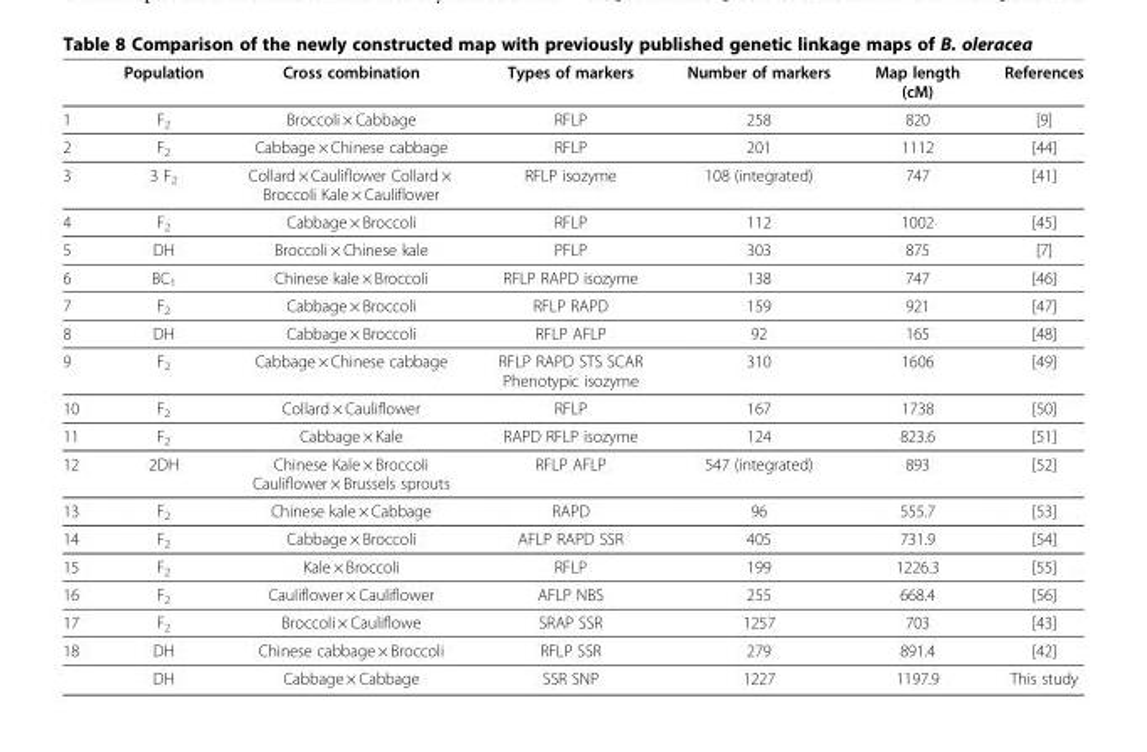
<table><thead><tr><td></td><td>Population</td><td>Cross combination</td><td>Types of markers</td><td>Number of markers</td><td>Map length (cM)</td><td>References</td></tr></thead><tbody><tr><td>1</td><td>F<sub>2</sub></td><td>Broccoli × Cabbage</td><td>RFLP</td><td>258</td><td>820</td><td>[9]</td></tr><tr><td>2</td><td>F<sub>2</sub></td><td>Cabbage × Chinese cabbage</td><td>RFLP</td><td>201</td><td>1112</td><td>[44]</td></tr><tr><td>3</td><td>3 F<sub>2</sub></td><td>Collard × Cauliflower Collard × Broccoli Kale × Cauliflower</td><td>RFLP isozyme</td><td>108 (integrated)</td><td>747</td><td>[41]</td></tr><tr><td>4</td><td>F<sub>2</sub></td><td>Cabbage × Broccoli</td><td>RFLP</td><td>112</td><td>1002</td><td>[45]</td></tr><tr><td>5</td><td>DH</td><td>Broccoli × Chinese kale</td><td>PFLP</td><td>303</td><td>875</td><td>[7]</td></tr><tr><td>6</td><td>BC<sub>1</sub></td><td>Chinese kale × Broccoli</td><td>RFLP RAPD isozyme</td><td>138</td><td>747</td><td>[46]</td></tr><tr><td>7</td><td>F<sub>2</sub></td><td>Cabbage × Broccoli</td><td>RFLP RAPD</td><td>159</td><td>921</td><td>[47]</td></tr><tr><td>8</td><td>DH</td><td>Cabbage × Broccoli</td><td>RFLP AFLP</td><td>92</td><td>165</td><td>[48]</td></tr><tr><td>9</td><td>F<sub>2</sub></td><td>Cabbage × Chinese cabbage</td><td>RFLP RAPD STS SCAR Phenotypic isozyme</td><td>310</td><td>1606</td><td>[49]</td></tr><tr><td>10</td><td>F<sub>2</sub></td><td>Collard × Cauliflower</td><td>RFLP</td><td>167</td><td>1738</td><td>[50]</td></tr><tr><td>11</td><td>F<sub>2</sub></td><td>Cabbage × Kale</td><td>RAPD RFLP isozyme</td><td>124</td><td>823.6</td><td>[51]</td></tr><tr><td>12</td><td>2DH</td><td>Chinese Kale × Broccoli Cauliflower × Brussels sprouts</td><td>RFLP AFLP</td><td>547 (integrated)</td><td>893</td><td>[52]</td></tr><tr><td>13</td><td>F<sub>2</sub></td><td>Chinese kale × Cabbage</td><td>RAPD</td><td>96</td><td>555.7</td><td>[53]</td></tr><tr><td>14</td><td>F<sub>2</sub></td><td>Cabbage × Broccoli</td><td>AFLP RAPD SSR</td><td>405</td><td>731.9</td><td>[54]</td></tr><tr><td>15</td><td>F<sub>2</sub></td><td>Kale × Broccoli</td><td>RFLP</td><td>199</td><td>1226.3</td><td>[55]</td></tr><tr><td>16</td><td>F<sub>2</sub></td><td>Cauliflower × Cauliflower</td><td>AFLP NBS</td><td>255</td><td>668.4</td><td>[56]</td></tr><tr><td>17</td><td>F<sub>2</sub></td><td>Broccoli × Cauliflowe</td><td>SRAP SSR</td><td>1257</td><td>703</td><td>[43]</td></tr><tr><td rowspan="2">18</td><td>DH</td><td>Chinese cabbage × Broccoli</td><td>RFLP SSR</td><td>279</td><td>891.4</td><td>[42]</td></tr><tr><td>DH</td><td>Cabbage × Cabbage</td><td>SSR SNP</td><td>1227</td><td>1197.9</td><td>This study</td></tr></tbody></table>